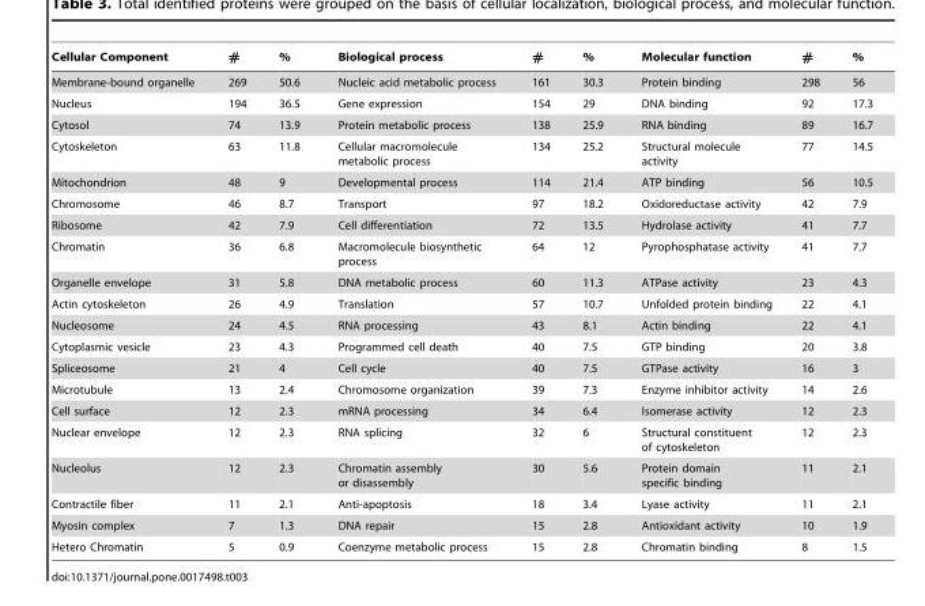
<table><thead><tr><td>Cellular Component</td><td>#</td><td>%</td><td>Biological process</td><td>#</td><td>%</td><td>Molecular function</td><td>#</td><td>%</td></tr></thead><tbody><tr><td>Membrane-bound organelle</td><td>269</td><td>50.6</td><td>Nucleic acid metabolic process</td><td>161</td><td>30.3</td><td>Protein binding</td><td>298</td><td>56</td></tr><tr><td>Nucleus</td><td>194</td><td>36.5</td><td>Gene expression</td><td>154</td><td>29</td><td>DNA binding</td><td>92</td><td>17.3</td></tr><tr><td>Cytosol</td><td>74</td><td>13.9</td><td>Protein metabolic process</td><td>138</td><td>25.9</td><td>RNA binding</td><td>89</td><td>16.7</td></tr><tr><td>Cytoskeleton</td><td>63</td><td>11.8</td><td>Cellular macromolecule metabolic process</td><td>134</td><td>25.2</td><td>Structural molecule activity</td><td>77</td><td>14.5</td></tr><tr><td>Mitochondrion</td><td>48</td><td>9</td><td>Developmental process</td><td>114</td><td>21.4</td><td>ATP binding</td><td>56</td><td>10.5</td></tr><tr><td>Chromosome</td><td>46</td><td>8.7</td><td>Transport</td><td>97</td><td>18.2</td><td>Oxidoreductase activity</td><td>42</td><td>7.9</td></tr><tr><td>Ribosome</td><td>42</td><td>7.9</td><td>Cell differentiation</td><td>72</td><td>13.5</td><td>Hydrolase activity</td><td>41</td><td>7.7</td></tr><tr><td>Chromatin</td><td>36</td><td>6.8</td><td>Macromolecule biosynthetic process</td><td>64</td><td>12</td><td>Pyrophosphatase activity</td><td>41</td><td>7.7</td></tr><tr><td>Organelle envelope</td><td>31</td><td>5.8</td><td>DNA metabolic process</td><td>60</td><td>11.3</td><td>ATPase activity</td><td>23</td><td>4.3</td></tr><tr><td>Actin cytoskeleton</td><td>26</td><td>4.9</td><td>Translation</td><td>57</td><td>10.7</td><td>Unfolded protein binding</td><td>22</td><td>4.1</td></tr><tr><td>Nucleosome</td><td>24</td><td>4.5</td><td>RNA processing</td><td>43</td><td>8.1</td><td>Actin binding</td><td>22</td><td>4.1</td></tr><tr><td>Cytoplasmic vesicle</td><td>23</td><td>4.3</td><td>Programmed cell death</td><td>40</td><td>7.5</td><td>GTP binding</td><td>20</td><td>3.8</td></tr><tr><td>Spliceosome</td><td>21</td><td>4</td><td>Cell cycle</td><td>40</td><td>7.5</td><td>GTPase activity</td><td>16</td><td>3</td></tr><tr><td>Microtubule</td><td>13</td><td>2.4</td><td>Chromosome organization</td><td>39</td><td>7.3</td><td>Enzyme inhibitor activity</td><td>14</td><td>2.6</td></tr><tr><td>Cell surface</td><td>12</td><td>2.3</td><td>mRNA processing</td><td>34</td><td>6.4</td><td>Isomerase activity</td><td>12</td><td>2.3</td></tr><tr><td>Nuclear envelope</td><td>12</td><td>2.3</td><td>RNA splicing</td><td>32</td><td>6</td><td>Structural constituent of cytoskeleton</td><td>12</td><td>2.3</td></tr><tr><td>Nucleolus</td><td>12</td><td>2.3</td><td>Chromatin assembly or disassembly</td><td>30</td><td>5.6</td><td>Protein domain specific binding</td><td>11</td><td>2.1</td></tr><tr><td>Contractile fiber</td><td>11</td><td>2.1</td><td>Anti-apoptosis</td><td>18</td><td>3.4</td><td>Lyase activity</td><td>11</td><td>2.1</td></tr><tr><td>Myosin complex</td><td>7</td><td>1.3</td><td>DNA repair</td><td>15</td><td>2.8</td><td>Antioxidant activity</td><td>10</td><td>1.9</td></tr><tr><td>Hetero Chromatin</td><td>5</td><td>0.9</td><td>Coenzyme metabolic process</td><td>15</td><td>2.8</td><td>Chromatin binding</td><td>8</td><td>1.5</td></tr></tbody></table>